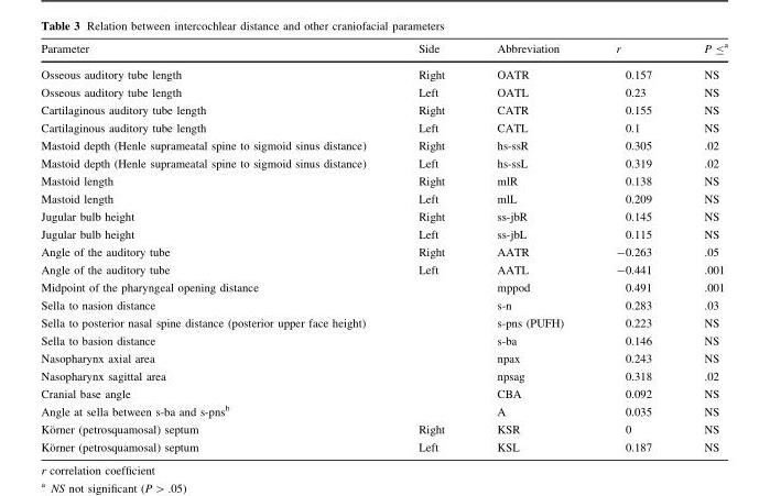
<table><thead><tr><td>Parameter</td><td>Side</td><td>Abbreviation</td><td>r</td><td>P ≤<sup>a</sup></td></tr></thead><tbody><tr><td>Osseous auditory tube length</td><td>Right</td><td>OATR</td><td>0.157</td><td>NS</td></tr><tr><td>Osseous auditory tube length</td><td>Left</td><td>OATL</td><td>0.23</td><td>NS</td></tr><tr><td>Cartilaginous auditory tube length</td><td>Right</td><td>CATR</td><td>0.155</td><td>NS</td></tr><tr><td>Cartilaginous auditory tube length</td><td>Left</td><td>CATL</td><td>0.1</td><td>NS</td></tr><tr><td>Mastoid depth (Henle suprameatal spine to sigmoid sinus distance)</td><td>Right</td><td>hs-ssR</td><td>0.305</td><td>.02</td></tr><tr><td>Mastoid depth (Henle suprameatal spine to sigmoid sinus distance)</td><td>Left</td><td>hs-ssL</td><td>0.319</td><td>.02</td></tr><tr><td>Mastoid length</td><td>Right</td><td>mlR</td><td>0.138</td><td>NS</td></tr><tr><td>Mastoid length</td><td>Left</td><td>mlL</td><td>0.209</td><td>NS</td></tr><tr><td>Jugular bulb height</td><td>Right</td><td>ss-jbR</td><td>0.145</td><td>NS</td></tr><tr><td>Jugular bulb height</td><td>Left</td><td>ss-jbL</td><td>0.115</td><td>NS</td></tr><tr><td>Angle of the auditory tube</td><td>Right</td><td>AATR</td><td>-0.263</td><td>.05</td></tr><tr><td>Angle of the auditory tube</td><td>Left</td><td>AATL</td><td>-0.441</td><td>.001</td></tr><tr><td>Midpoint of the pharyngeal opening distance</td><td></td><td>mppod</td><td>0.491</td><td>.001</td></tr><tr><td>Sella to nasion distance</td><td></td><td>s-n</td><td>0.283</td><td>.03</td></tr><tr><td>Sella to posterior nasal spine distance (posterior upper face height)</td><td></td><td>s-pns (PUFH)</td><td>0.223</td><td>NS</td></tr><tr><td>Sella to basion distance</td><td></td><td>s-ba</td><td>0.146</td><td>NS</td></tr><tr><td>Nasopharynx axial area</td><td></td><td>npax</td><td>0.243</td><td>NS</td></tr><tr><td>Nasopharynx sagittal area</td><td></td><td>npsag</td><td>0.318</td><td>.02</td></tr><tr><td>Cranial base angle</td><td></td><td>CBA</td><td>0.092</td><td>NS</td></tr><tr><td>Angle at sella between s-ba and s-pns<sup>b</sup></td><td></td><td>A</td><td>0.035</td><td>NS</td></tr><tr><td>Ko¨rner (petrosquamosal) septum</td><td>Right</td><td>KSR</td><td>0</td><td>NS</td></tr><tr><td>Ko¨rner (petrosquamosal) septum</td><td>Left</td><td>KSL</td><td>0.187</td><td>NS</td></tr></tbody></table>